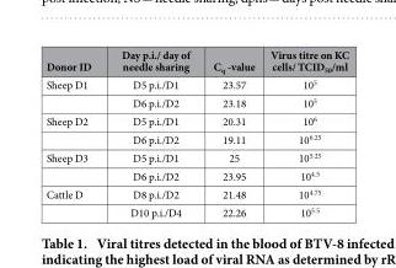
<table><thead><tr><td>Donor ID</td><td>Day p.i./ day of needle sharing</td><td>C<sub>q</sub> -value</td><td>Virus titre on KC cells/ TCID<sub>50</sub>/ml</td></tr></thead><tbody><tr><td rowspan="2">Sheep D1</td><td>D5 p.i./D1</td><td>23.57</td><td>10<sup>5</sup></td></tr><tr><td>D6 p.i./D2</td><td>23.18</td><td>10<sup>5</sup></td></tr><tr><td rowspan="2">Sheep D2</td><td>D5 p.i./D1</td><td>20.31</td><td>10<sup>6</sup></td></tr><tr><td>D6 p.i./D2</td><td>19.11</td><td>10<sup>6.25</sup></td></tr><tr><td rowspan="2">Sheep D3</td><td>D5 p.i./D1</td><td>25</td><td>10<sup>5.25</sup></td></tr><tr><td>D6 p.i./D2</td><td>23.95</td><td>10<sup>4.5</sup></td></tr><tr><td rowspan="2">Cattle D</td><td>D8 p.i./D2</td><td>21.48</td><td>10<sup>4.75</sup></td></tr><tr><td>D10 p.i./D4</td><td>22.26</td><td>10<sup>5.5</sup></td></tr></tbody></table>